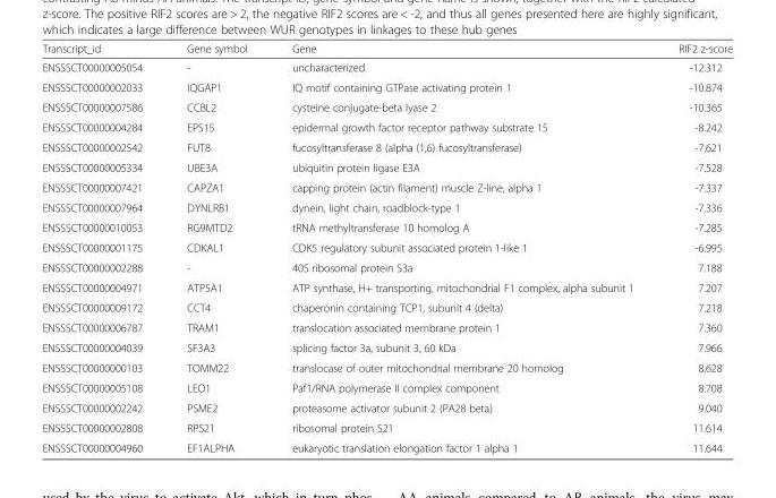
<table><thead><tr><td>Transcript_id</td><td>Gene symbol</td><td>Gene</td><td>RIF2 z-score</td></tr></thead><tbody><tr><td>ENSSSCT00000005054</td><td>-</td><td>uncharacterized</td><td>-12.312</td></tr><tr><td>ENSSSCT00000002033</td><td>IQGAP1</td><td>IQ motif containing GTPase activating protein 1</td><td>-10.874</td></tr><tr><td>ENSSSCT00000007586</td><td>CCBL2</td><td>cysteine conjugate-beta lyase 2</td><td>-10.365</td></tr><tr><td>ENSSSCT00000004284</td><td>EPS15</td><td>epidermal growth factor receptor pathway substrate 15</td><td>-8.242</td></tr><tr><td>ENSSSCT00000002542</td><td>FUT8</td><td>fucosyltransferase 8 (alpha (1,6) fucosyltransferase)</td><td>-7.621</td></tr><tr><td>ENSSSCT00000005334</td><td>UBE3A</td><td>ubiquitin protein ligase E3A</td><td>-7.528</td></tr><tr><td>ENSSSCT00000007421</td><td>CAPZA1</td><td>capping protein (actin filament) muscle Z-line, alpha 1</td><td>-7.337</td></tr><tr><td>ENSSSCT00000007964</td><td>DYNLRB1</td><td>dynein, light chain, roadblock-type 1</td><td>-7.336</td></tr><tr><td>ENSSSCT00000010053</td><td>RG9MTD2</td><td>tRNA methyltransferase 10 homolog A</td><td>-7.285</td></tr><tr><td>ENSSSCT00000001175</td><td>CDKAL1</td><td>CDK5 regulatory subunit associated protein 1-like 1</td><td>-6.995</td></tr><tr><td>ENSSSCT00000002288</td><td>-</td><td>40S ribosomal protein S3a</td><td>7.188</td></tr><tr><td>ENSSSCT00000004971</td><td>ATP5A1</td><td>ATP synthase, H+ transporting, mitochondrial F1 complex, alpha subunit 1</td><td>7.207</td></tr><tr><td>ENSSSCT00000009172</td><td>CCT4</td><td>chaperonin containing TCP1, subunit 4 (delta)</td><td>7.218</td></tr><tr><td>ENSSSCT00000006787</td><td>TRAM1</td><td>translocation associated membrane protein 1</td><td>7.360</td></tr><tr><td>ENSSSCT00000004039</td><td>SF3A3</td><td>splicing factor 3a, subunit 3, 60 kDa</td><td>7.966</td></tr><tr><td>ENSSSCT00000000103</td><td>TOMM22</td><td>translocase of outer mitochondrial membrane 20 homolog</td><td>8.628</td></tr><tr><td>ENSSSCT00000005108</td><td>LEO1</td><td>Paf1/RNA polymerase II complex component</td><td>8.708</td></tr><tr><td>ENSSSCT00000002242</td><td>PSME2</td><td>proteasome activator subunit 2 (PA28 beta)</td><td>9.040</td></tr><tr><td>ENSSSCT00000002808</td><td>RPS21</td><td>ribosomal protein S21</td><td>11.614</td></tr><tr><td>ENSSSCT00000004960</td><td>EF1ALPHA</td><td>eukaryotic translation elongation factor 1 alpha 1</td><td>11.644</td></tr></tbody></table>